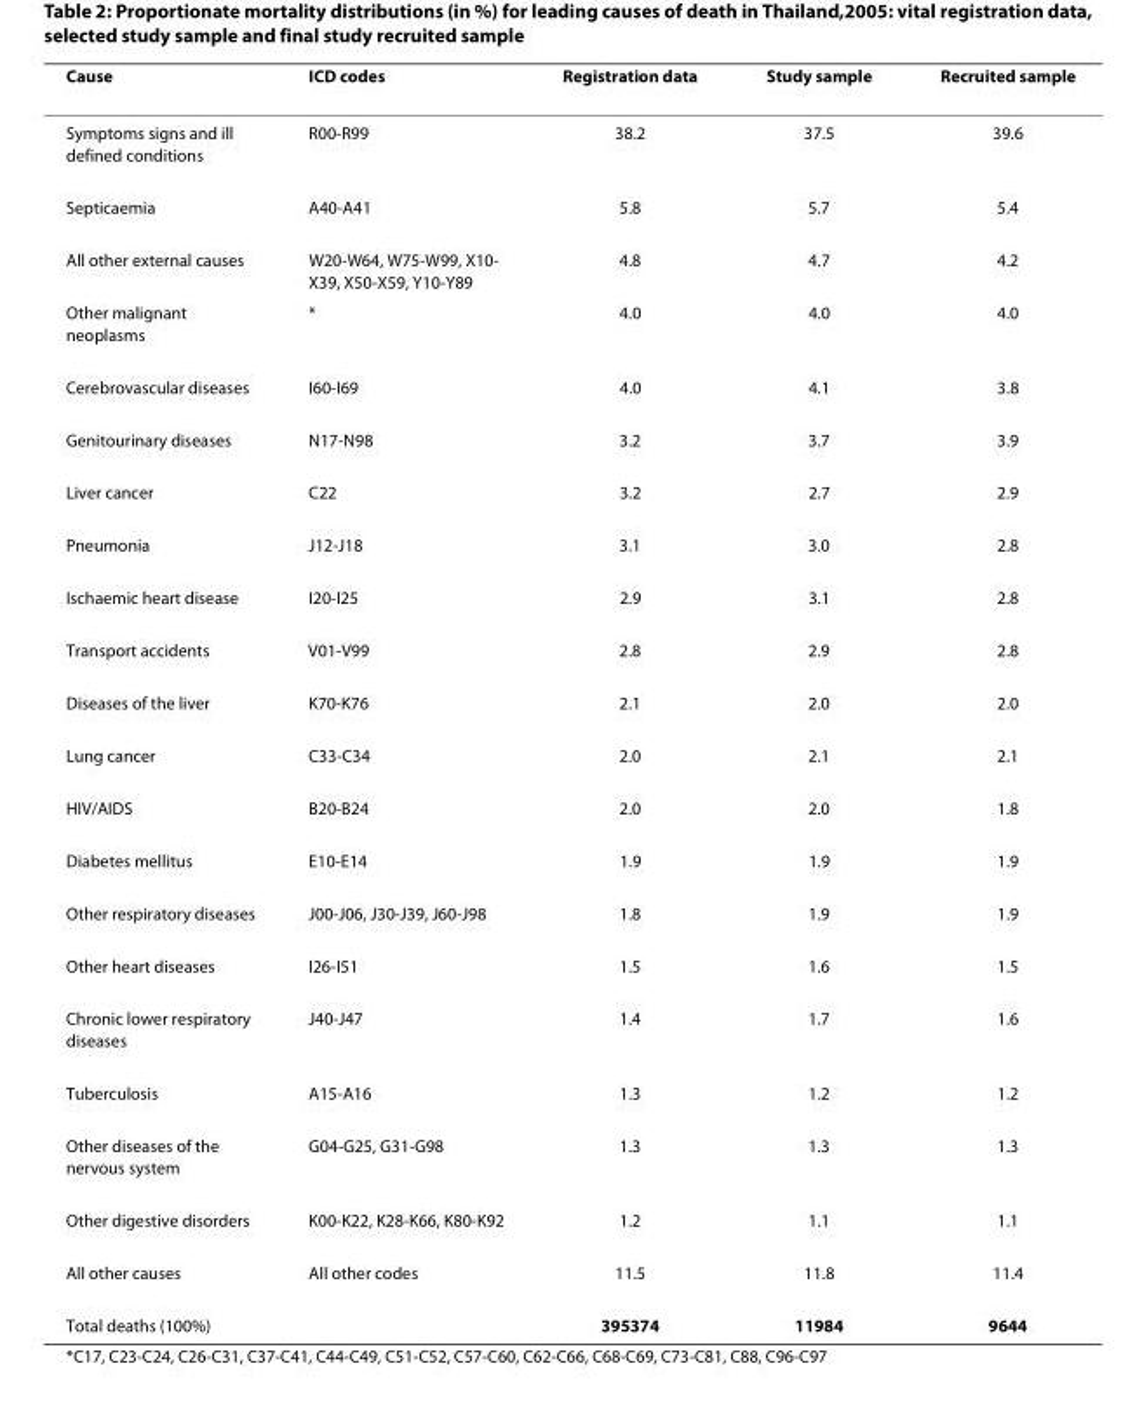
<table><thead><tr><td>Cause</td><td>ICD codes</td><td>Registration data</td><td>Study sample</td><td>Recruited sample</td></tr></thead><tbody><tr><td>Symptoms signs and ill defined conditions</td><td>R00-R99</td><td>38.2</td><td>37.5</td><td>39.6</td></tr><tr><td>Septicaemia</td><td>A40-A41</td><td>5.8</td><td>5.7</td><td>5.4</td></tr><tr><td>All other external causes</td><td>W20-W64, W75-W99, X10- X39, X50-X59, Y10-Y89</td><td>4.8</td><td>4.7</td><td>4.2</td></tr><tr><td>Other malignant neoplasms</td><td>*</td><td>4.0</td><td>4.0</td><td>4.0</td></tr><tr><td>Cerebrovascular diseases</td><td>I60-I69</td><td>4.0</td><td>4.1</td><td>3.8</td></tr><tr><td>Genitourinary diseases</td><td>N17-N98</td><td>3.2</td><td>3.7</td><td>3.9</td></tr><tr><td>Liver cancer</td><td>C22</td><td>3.2</td><td>2.7</td><td>2.9</td></tr><tr><td>Pneumonia</td><td>J12-J18</td><td>3.1</td><td>3.0</td><td>2.8</td></tr><tr><td>Ischaemic heart disease</td><td>I20-I25</td><td>2.9</td><td>3.1</td><td>2.8</td></tr><tr><td>Transport accidents</td><td>V01-V99</td><td>2.8</td><td>2.9</td><td>2.8</td></tr><tr><td>Diseases of the liver</td><td>K70-K76</td><td>2.1</td><td>2.0</td><td>2.0</td></tr><tr><td>Lung cancer</td><td>C33-C34</td><td>2.0</td><td>2.1</td><td>2.1</td></tr><tr><td>HIV/AIDS</td><td>B20-B24</td><td>2.0</td><td>2.0</td><td>1.8</td></tr><tr><td>Diabetes mellitus</td><td>E10-E14</td><td>1.9</td><td>1.9</td><td>1.9</td></tr><tr><td>Other respiratory diseases</td><td>J00-J06, J30-J39, J60-J98</td><td>1.8</td><td>1.9</td><td>1.9</td></tr><tr><td>Other heart diseases</td><td>I26-I51</td><td>1.5</td><td>1.6</td><td>1.5</td></tr><tr><td>Chronic lower respiratory diseases</td><td>J40-J47</td><td>1.4</td><td>1.7</td><td>1.6</td></tr><tr><td>Tuberculosis</td><td>A15-A16</td><td>1.3</td><td>1.2</td><td>1.2</td></tr><tr><td>Other diseases of the nervous system</td><td>G04-G25, G31-G98</td><td>1.3</td><td>1.3</td><td>1.3</td></tr><tr><td>Other digestive disorders</td><td>K00-K22, K28-K66, K80-K92</td><td>1.2</td><td>1.1</td><td>1.1</td></tr><tr><td>All other causes</td><td>All other codes</td><td>11.5</td><td>11.8</td><td>11.4</td></tr><tr><td>Total deaths (100%)</td><td></td><td>395374</td><td>11984</td><td>9644</td></tr></tbody></table>